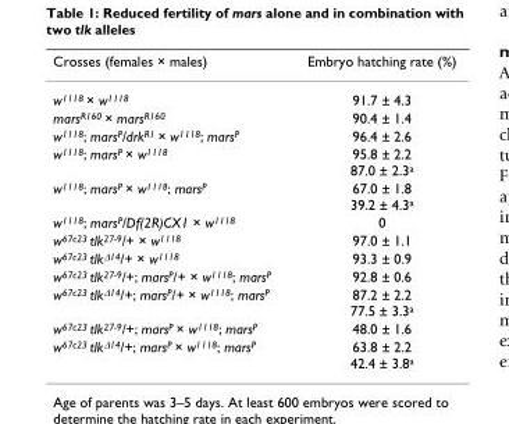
<table><thead><tr><td>Crosses (females × males)</td><td>Embryo hatching rate (%)</td></tr></thead><tbody><tr><td>w<sup>1118</sup> × w<sup>1118</sup></td><td>91.7 ± 4.3</td></tr><tr><td>mars<sup>R160</sup> × mars<sup>R160</sup></td><td>90.4 ± 1.4</td></tr><tr><td>w<sup>1118</sup>; mars<sup>P</sup>/drk<sup>R1</sup> × w<sup>1118</sup>; mars<sup>P</sup></td><td>96.4 ± 2.6</td></tr><tr><td>w<sup>1118</sup>; mars<sup>P</sup> × w<sup>1118</sup></td><td>95.8 ± 2.2 87.0 ± 2.3<sup>a</sup></td></tr><tr><td>w<sup>1118</sup>; mars<sup>P</sup> × w<sup>1118</sup>; mars<sup>P</sup></td><td>67.0 ± 1.8 39.2 ± 4.3<sup>a</sup></td></tr><tr><td>w<sup>1118</sup>; mars<sup>P</sup>/Df(2R)CX1 × w<sup>1118</sup></td><td>0</td></tr><tr><td>w<sup>67c23</sup> tlk<sup>27-9</sup>/+ × w<sup>1118</sup></td><td>97.0 ± 1.1</td></tr><tr><td>w<sup>67c23</sup> tlk<sup>Δ14</sup>/+ × w<sup>1118</sup></td><td>93.3 ± 0.9</td></tr><tr><td>w<sup>67c23</sup> tlk<sup>27-9</sup>/+; mars<sup>P</sup>/+ × w<sup>1118</sup>; mars<sup>P</sup></td><td>92.8 ± 0.6</td></tr><tr><td>w<sup>67c23</sup> tlk<sup>Δ14</sup>/+; mars<sup>P</sup>/+ × w<sup>1118</sup>; mars<sup>P</sup></td><td>87.2 ± 2.2 77.5 ± 3.3<sup>a</sup></td></tr><tr><td>w<sup>67c23</sup> tlk<sup>27-9</sup>/+; mars<sup>P</sup> × w<sup>1118</sup>; mars<sup>P</sup></td><td>48.0 ± 1.6</td></tr><tr><td>w<sup>67c23</sup> tlk<sup>Δ14</sup>/+; mars<sup>P</sup> × w<sup>1118</sup>; mars<sup>P</sup></td><td>63.8 ± 2.2 42.4 ± 3.8<sup>a</sup></td></tr></tbody></table>